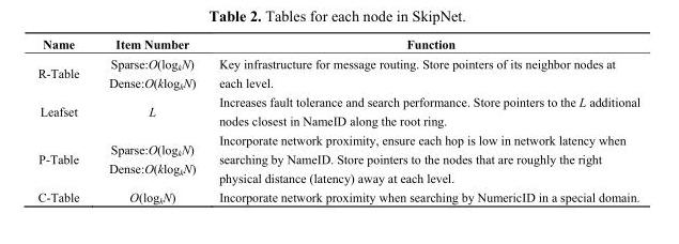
<table><thead><tr><td>Name</td><td>Item Number</td><td>Function</td></tr></thead><tbody><tr><td>R-Table</td><td>Sparse:O(log<sub>k</sub>N) Dense:O(klog<sub>k</sub>N)</td><td>Key infrastructure for message routing. Store pointers of its neighbor nodes at each level.</td></tr><tr><td>Leafset</td><td>L</td><td>Increases fault tolerance and search performance. Store pointers to the L additional nodes closest in NameID along the root ring.</td></tr><tr><td>P-Table</td><td>Sparse:O(log<sub>k</sub>N) Dense:O(klog<sub>k</sub>N)</td><td>Incorporate network proximity, ensure each hop is low in network latency when searching by NameID. Store pointers to the nodes that are roughly the right physical distance (latency) away at each level.</td></tr><tr><td>C-Table</td><td>O(log<sub>k</sub>N)</td><td>Incorporate network proximity when searching by NumericID in a special domain.</td></tr></tbody></table>